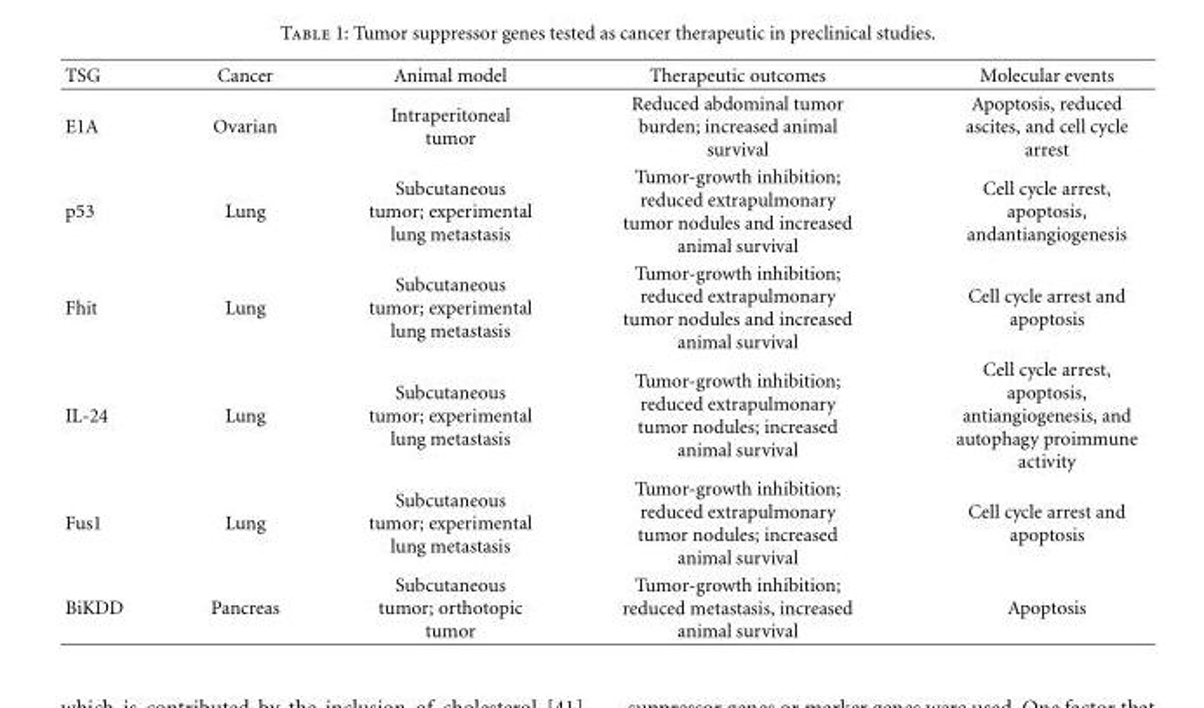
<table><thead><tr><td>TSG</td><td>Cancer</td><td>Animal model</td><td>Therapeutic outcomes</td><td>Molecular events</td></tr></thead><tbody><tr><td>E1A</td><td>Ovarian</td><td>Intraperitoneal tumor</td><td>Reduced abdominal tumor burden; increased animal survival</td><td>Apoptosis, reduced ascites, and cell cycle arrest</td></tr><tr><td>p53</td><td>Lung</td><td>Subcutaneous tumor; experimental lung metastasis</td><td>Tumor-growth inhibition; reduced extrapulmonary tumor nodules and increased animal survival</td><td>Cell cycle arrest, apoptosis, andantiangiogenesis</td></tr><tr><td>Fhit</td><td>Lung</td><td>Subcutaneous tumor; experimental lung metastasis</td><td>Tumor-growth inhibition; reduced extrapulmonary tumor nodules and increased animal survival</td><td>Cell cycle arrest and apoptosis</td></tr><tr><td>IL-24</td><td>Lung</td><td>Subcutaneous tumor; experimental lung metastasis</td><td>Tumor-growth inhibition; reduced extrapulmonary tumor nodules; increased animal survival</td><td>Cell cycle arrest, apoptosis, antiangiogenesis, and autophagy proimmune activity</td></tr><tr><td>Fus1</td><td>Lung</td><td>Subcutaneous tumor; experimental lung metastasis</td><td>Tumor-growth inhibition; reduced extrapulmonary tumor nodules; increased animal survival</td><td>Cell cycle arrest and apoptosis</td></tr><tr><td>BiKDD</td><td>Pancreas</td><td>Subcutaneous tumor; orthotopic tumor</td><td>Tumor-growth inhibition; reduced metastasis, increased animal survival</td><td>Apoptosis</td></tr></tbody></table>